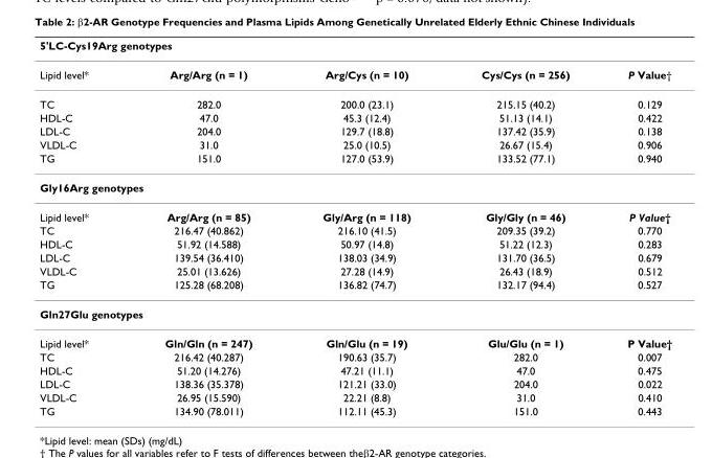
<table><thead><tr><td colspan="5">5&#x27;LC-Cys19Arg genotypes</td></tr><tr><td>Lipid level*</td><td>Arg/Arg (n = 1)</td><td>Arg/Cys (n = 10)</td><td>Cys/Cys (n = 256)</td><td>P Value†</td></tr></thead><tbody><tr><td>TC</td><td>282.0</td><td>200.0 (23.1)</td><td>215.15 (40.2)</td><td>0.129</td></tr><tr><td>HDL-C</td><td>47.0</td><td>45.3 (12.4)</td><td>51.13 (14.1)</td><td>0.422</td></tr><tr><td>LDL-C</td><td>204.0</td><td>129.7 (18.8)</td><td>137.42 (35.9)</td><td>0.138</td></tr><tr><td>VLDL-C</td><td>31.0</td><td>25.0 (10.5)</td><td>26.67 (15.4)</td><td>0.906</td></tr><tr><td>TG</td><td>151.0</td><td>127.0 (53.9)</td><td>133.52 (77.1)</td><td>0.940</td></tr><tr><td colspan="5">Gly16Arg genotypes</td></tr><tr><td>Lipid level*</td><td>Arg/Arg (n = 85)</td><td>Gly/Arg (n = 118)</td><td>Gly/Gly (n = 46)</td><td>P Value†</td></tr><tr><td>TC</td><td>216.47 (40.862)</td><td>216.10 (41.5)</td><td>209.35 (39.2)</td><td>0.770</td></tr><tr><td>HDL-C</td><td>51.92 (14.588)</td><td>50.97 (14.8)</td><td>51.22 (12.3)</td><td>0.283</td></tr><tr><td>LDL-C</td><td>139.54 (36.410)</td><td>138.03 (34.9)</td><td>131.70 (36.5)</td><td>0.679</td></tr><tr><td>VLDL-C</td><td>25.01 (13.626)</td><td>27.28 (14.9)</td><td>26.43 (18.9)</td><td>0.512</td></tr><tr><td>TG</td><td>125.28 (68.208)</td><td>136.82 (74.7)</td><td>132.17 (94.4)</td><td>0.527</td></tr><tr><td colspan="5">Gln27Glu genotypes</td></tr><tr><td>Lipid level*</td><td>Gln/Gln (n = 247)</td><td>Gln/Glu (n = 19)</td><td>Glu/Glu (n = 1)</td><td>P Value†</td></tr><tr><td>TC</td><td>216.42 (40.287)</td><td>190.63 (35.7)</td><td>282.0</td><td>0.007</td></tr><tr><td>HDL-C</td><td>51.20 (14.276)</td><td>47.21 (11.1)</td><td>47.0</td><td>0.475</td></tr><tr><td>LDL-C</td><td>138.36 (35.378)</td><td>121.21 (33.0)</td><td>204.0</td><td>0.022</td></tr><tr><td>VLDL-C</td><td>26.95 (15.590)</td><td>22.21 (8.8)</td><td>31.0</td><td>0.410</td></tr><tr><td>TG</td><td>134.90 (78.011)</td><td>112.11 (45.3)</td><td>151.0</td><td>0.443</td></tr></tbody></table>